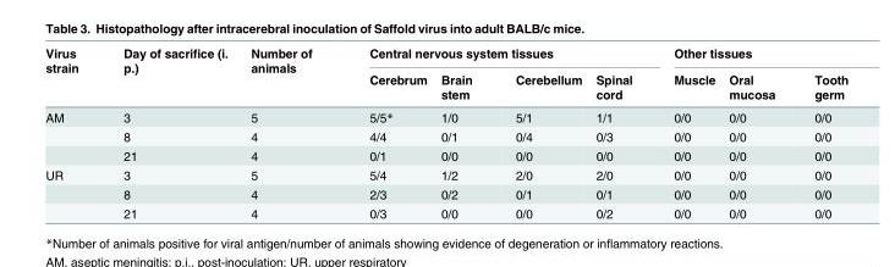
<table><thead><tr><td rowspan="2">Virus strain</td><td rowspan="2">Day of sacrifice (i. p.)</td><td rowspan="2">Number of animals</td><td colspan="4">Central nervous system tissues</td><td colspan="3">Other tissues</td></tr><tr><td>Cerebrum</td><td>Brain stem</td><td>Cerebellum</td><td>Spinal cord</td><td>Muscle</td><td>Oral mucosa</td><td>Tooth germ</td></tr></thead><tbody><tr><td rowspan="3">AM</td><td>3</td><td>5</td><td>5/5*</td><td>1/0</td><td>5/1</td><td>1/1</td><td>0/0</td><td>0/0</td><td>0/0</td></tr><tr><td>8</td><td>4</td><td>4/4</td><td>0/1</td><td>0/4</td><td>0/3</td><td>0/0</td><td>0/0</td><td>0/0</td></tr><tr><td>21</td><td>4</td><td>0/1</td><td>0/0</td><td>0/0</td><td>0/0</td><td>0/0</td><td>0/0</td><td>0/0</td></tr><tr><td rowspan="3">UR</td><td>3</td><td>5</td><td>5/4</td><td>1/2</td><td>2/0</td><td>2/0</td><td>0/0</td><td>0/0</td><td>0/0</td></tr><tr><td>8</td><td>4</td><td>2/3</td><td>0/2</td><td>0/1</td><td>0/1</td><td>0/0</td><td>0/0</td><td>0/0</td></tr><tr><td>21</td><td>4</td><td>0/3</td><td>0/0</td><td>0/0</td><td>0/2</td><td>0/0</td><td>0/0</td><td>0/0</td></tr></tbody></table>